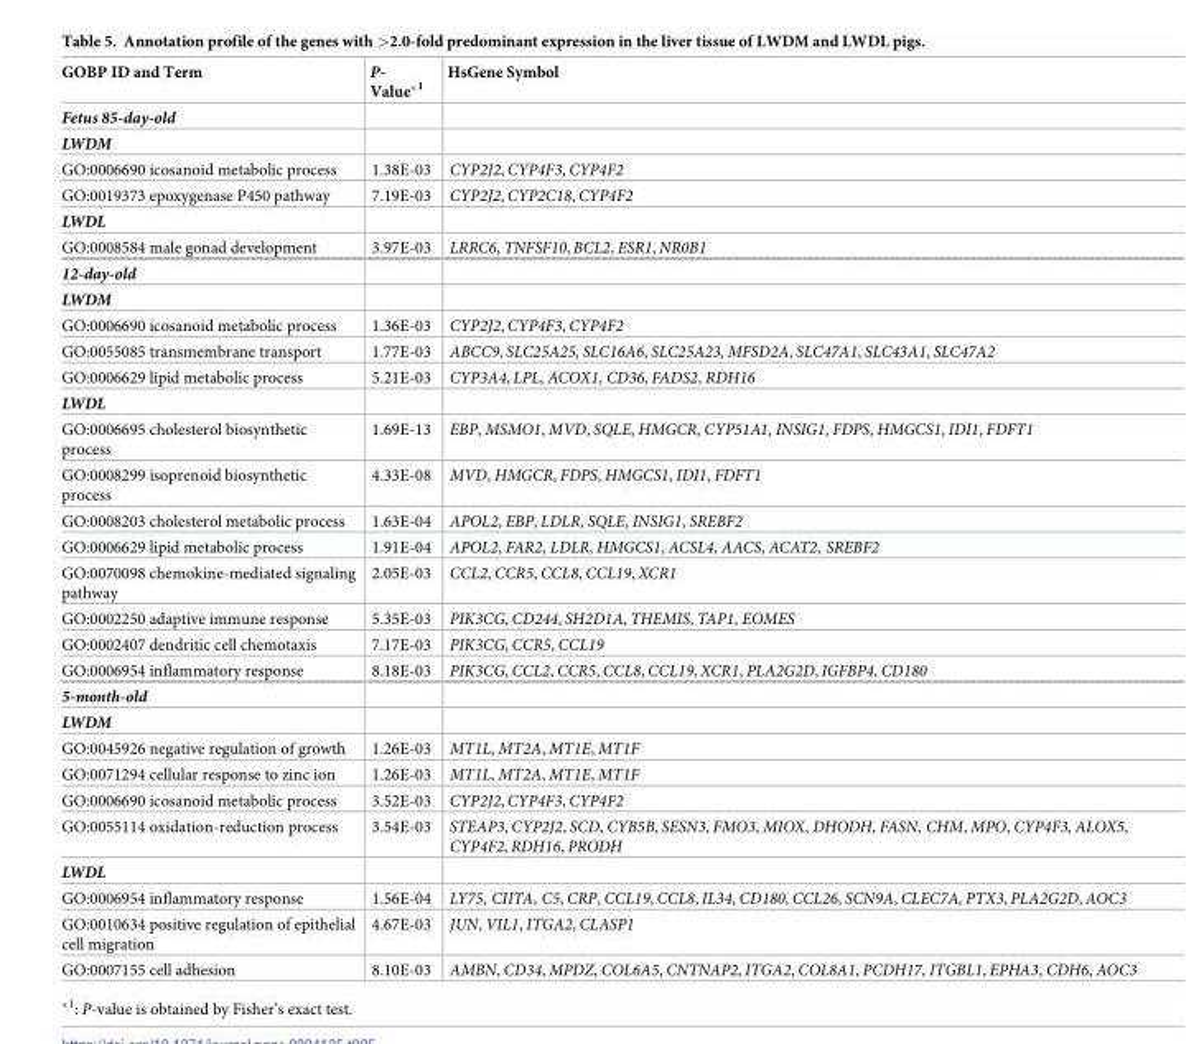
<table><thead><tr><td>GOBP ID and Term</td><td>P- Value*<sup>1</sup></td><td>HsGene Symbol</td></tr></thead><tbody><tr><td colspan="3">Fetus 85-day-old</td></tr><tr><td colspan="3">LWDM</td></tr><tr><td>GO:0006690 icosanoid metabolic process</td><td>1.38E-03</td><td>CYP2J2, CYP4F3, CYP4F2</td></tr><tr><td>GO:0019373 epoxygenase P450 pathway</td><td>7.19E-03</td><td>CYP2J2, CYP2C18, CYP4F2</td></tr><tr><td colspan="3">LWDL</td></tr><tr><td>GO:0008584 male gonad development</td><td>3.97E-03</td><td>LRRC6, TNFSF10, BCL2, ESR1, NR0B1</td></tr><tr><td colspan="3">12-day-old</td></tr><tr><td colspan="3">LWDM</td></tr><tr><td>GO:0006690 icosanoid metabolic process</td><td>1.36E-03</td><td>CYP2J2, CYP4F3, CYP4F2</td></tr><tr><td>GO:0055085 transmembrane transport</td><td>1.77E-03</td><td>ABCC9, SLC25A25, SLC16A6, SLC25A23, MFSD2A, SLC47A1, SLC43A1, SLC47A2</td></tr><tr><td>GO:0006629 lipid metabolic process</td><td>5.21E-03</td><td>CYP3A4, LPL, ACOX1, CD36, FADS2, RDH16</td></tr><tr><td colspan="3">LWDL</td></tr><tr><td>GO:0006695 cholesterol biosynthetic process</td><td>1.69E-13</td><td>EBP, MSMO1, MVD, SQLE, HMGCR, CYP51A1, INSIG1, FDPS, HMGCS1, IDI1, FDFT1</td></tr><tr><td>GO:0008299 isoprenoid biosynthetic process</td><td>4.33E-08</td><td>MVD, HMGCR, FDPS, HMGCS1, IDI1, FDFT1</td></tr><tr><td>GO:0008203 cholesterol metabolic process</td><td>1.63E-04</td><td>APOL2, EBP, LDLR, SQLE, INSIG1, SREBF2</td></tr><tr><td>GO:0006629 lipid metabolic process</td><td>1.91E-04</td><td>APOL2, FAR2, LDLR, HMGCS1, ACSL4, AACS, ACAT2, SREBF2</td></tr><tr><td>GO:0070098 chemokine-mediated signaling pathway</td><td>2.05E-03</td><td>CCL2, CCR5, CCL8, CCL19, XCR1</td></tr><tr><td>GO:0002250 adaptive immune response</td><td>5.35E-03</td><td>PIK3CG, CD244, SH2D1A, THEMIS, TAP1, EOMES</td></tr><tr><td>GO:0002407 dendritic cell chemotaxis</td><td>7.17E-03</td><td>PIK3CG, CCR5, CCL19</td></tr><tr><td>GO:0006954 inflammatory response</td><td>8.18E-03</td><td>PIK3CG, CCL2, CCR5, CCL8, CCL19, XCR1, PLA2G2D, IGFBP4, CD180</td></tr><tr><td colspan="3">5-month-old</td></tr><tr><td colspan="3">LWDM</td></tr><tr><td>GO:0045926 negative regulation of growth</td><td>1.26E-03</td><td>MT1L, MT2A, MT1E, MT1F</td></tr><tr><td>GO:0071294 cellular response to zinc ion</td><td>1.26E-03</td><td>MT1L, MT2A, MT1E, MT1F</td></tr><tr><td>GO:0006690 icosanoid metabolic process</td><td>3.52E-03</td><td>CYP2J2, CYP4F3, CYP4F2</td></tr><tr><td>GO:0055114 oxidation-reduction process</td><td>3.54E-03</td><td>STEAP3, CYP2J2, SCD, CYB5B, SESN3, FMO3, MIOX, DHODH, FASN, CHM, MPO, CYP4F3, ALOX5, CYP4F2, RDH16, PRODH</td></tr><tr><td colspan="3">LWDL</td></tr><tr><td>GO:0006954 inflammatory response</td><td>1.56E-04</td><td>LY75, CIITA, C5, CRP, CCL19, CCL8, IL34, CD180, CCL26, SCN9A, CLEC7A, PTX3, PLA2G2D, AOC3</td></tr><tr><td>GO:0010634 positive regulation of epithelial cell migration</td><td>4.67E-03</td><td>JUN, VIL1, ITGA2, CLASP1</td></tr><tr><td>GO:0007155 cell adhesion</td><td>8.10E-03</td><td>AMBN, CD34, MPDZ, COL6A5, CNTNAP2, ITGA2, COL8A1, PCDH17, ITGBL1, EPHA3, CDH6, AOC3</td></tr></tbody></table>